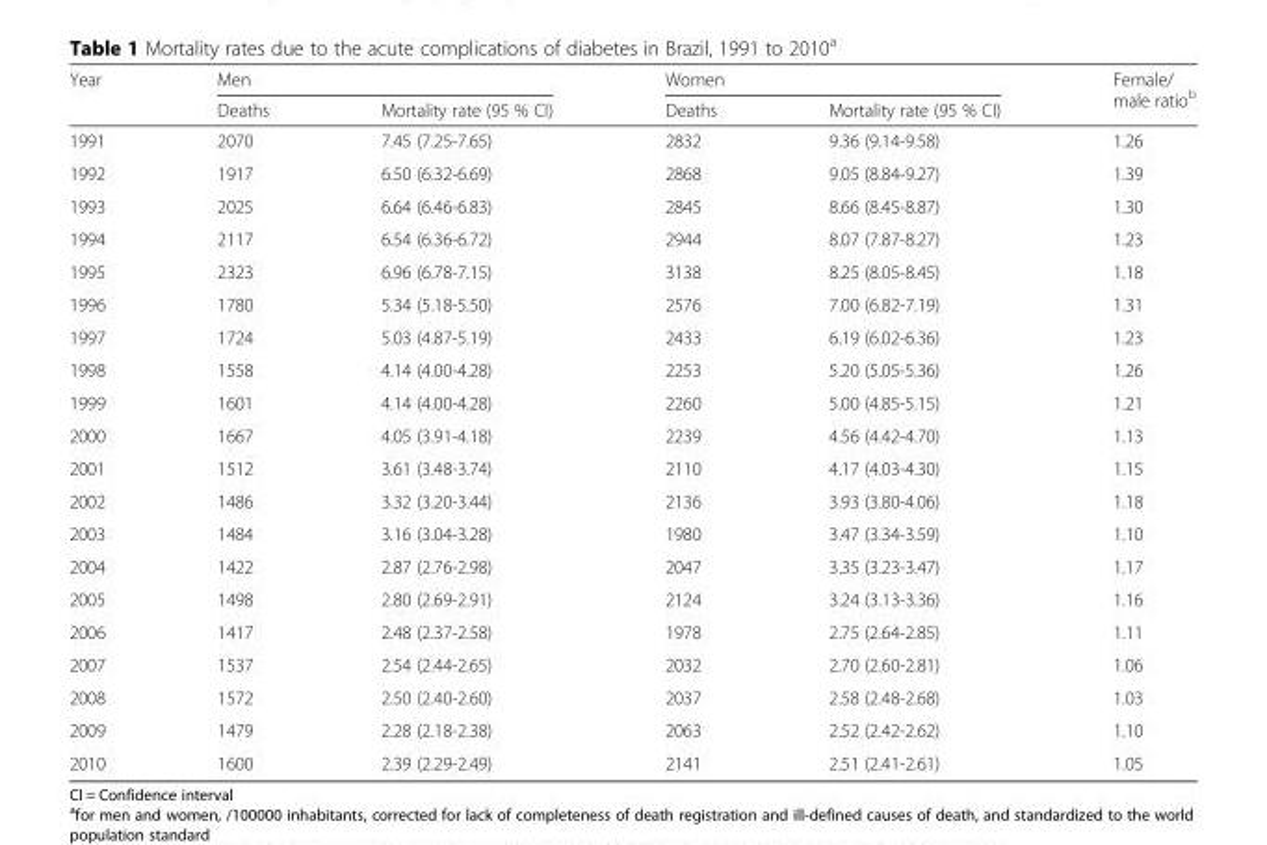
<table><thead><tr><td rowspan="2">Year</td><td colspan="2">Men</td><td colspan="2">Women</td><td rowspan="2">Female/ male ratio<sup>b</sup></td></tr><tr><td>Deaths</td><td>Mortality rate (95 % CI)</td><td>Deaths</td><td>Mortality rate (95 % CI)</td></tr></thead><tbody><tr><td>1991</td><td>2070</td><td>7.45 (7.25-7.65)</td><td>2832</td><td>9.36 (9.14-9.58)</td><td>1.26</td></tr><tr><td>1992</td><td>1917</td><td>6.50 (6.32-6.69)</td><td>2868</td><td>9.05 (8.84-9.27)</td><td>1.39</td></tr><tr><td>1993</td><td>2025</td><td>6.64 (6.46-6.83)</td><td>2845</td><td>8.66 (8.45-8.87)</td><td>1.30</td></tr><tr><td>1994</td><td>2117</td><td>6.54 (6.36-6.72)</td><td>2944</td><td>8.07 (7.87-8.27)</td><td>1.23</td></tr><tr><td>1995</td><td>2323</td><td>6.96 (6.78-7.15)</td><td>3138</td><td>8.25 (8.05-8.45)</td><td>1.18</td></tr><tr><td>1996</td><td>1780</td><td>5.34 (5.18-5.50)</td><td>2576</td><td>7.00 (6.82-7.19)</td><td>1.31</td></tr><tr><td>1997</td><td>1724</td><td>5.03 (4.87-5.19)</td><td>2433</td><td>6.19 (6.02-6.36)</td><td>1.23</td></tr><tr><td>1998</td><td>1558</td><td>4.14 (4.00-4.28)</td><td>2253</td><td>5.20 (5.05-5.36)</td><td>1.26</td></tr><tr><td>1999</td><td>1601</td><td>4.14 (4.00-4.28)</td><td>2260</td><td>5.00 (4.85-5.15)</td><td>1.21</td></tr><tr><td>2000</td><td>1667</td><td>4.05 (3.91-4.18)</td><td>2239</td><td>4.56 (4.42-4.70)</td><td>1.13</td></tr><tr><td>2001</td><td>1512</td><td>3.61 (3.48-3.74)</td><td>2110</td><td>4.17 (4.03-4.30)</td><td>1.15</td></tr><tr><td>2002</td><td>1486</td><td>3.32 (3.20-3.44)</td><td>2136</td><td>3.93 (3.80-4.06)</td><td>1.18</td></tr><tr><td>2003</td><td>1484</td><td>3.16 (3.04-3.28)</td><td>1980</td><td>3.47 (3.34-3.59)</td><td>1.10</td></tr><tr><td>2004</td><td>1422</td><td>2.87 (2.76-2.98)</td><td>2047</td><td>3.35 (3.23-3.47)</td><td>1.17</td></tr><tr><td>2005</td><td>1498</td><td>2.80 (2.69-2.91)</td><td>2124</td><td>3.24 (3.13-3.36)</td><td>1.16</td></tr><tr><td>2006</td><td>1417</td><td>2.48 (2.37-2.58)</td><td>1978</td><td>2.75 (2.64-2.85)</td><td>1.11</td></tr><tr><td>2007</td><td>1537</td><td>2.54 (2.44-2.65)</td><td>2032</td><td>2.70 (2.60-2.81)</td><td>1.06</td></tr><tr><td>2008</td><td>1572</td><td>2.50 (2.40-2.60)</td><td>2037</td><td>2.58 (2.48-2.68)</td><td>1.03</td></tr><tr><td>2009</td><td>1479</td><td>2.28 (2.18-2.38)</td><td>2063</td><td>2.52 (2.42-2.62)</td><td>1.10</td></tr><tr><td>2010</td><td>1600</td><td>2.39 (2.29-2.49)</td><td>2141</td><td>2.51 (2.41-2.61)</td><td>1.05</td></tr></tbody></table>